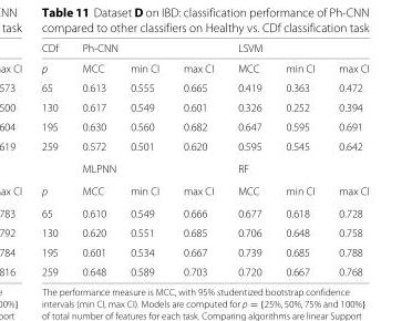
<table><thead><tr><td rowspan="2">CDf p</td><td colspan="3">Ph-CNN</td><td colspan="3">LSVM</td></tr><tr><td>MCC</td><td>min CI</td><td>max CI</td><td>MCC</td><td>min CI</td><td>max CI</td></tr></thead><tbody><tr><td>65</td><td>0.613</td><td>0.555</td><td>0.665</td><td>0.419</td><td>0.363</td><td>0.472</td></tr><tr><td>130</td><td>0.617</td><td>0.549</td><td>0.601</td><td>0.326</td><td>0.252</td><td>0.394</td></tr><tr><td>195</td><td>0.630</td><td>0.560</td><td>0.682</td><td>0.647</td><td>0.595</td><td>0.691</td></tr><tr><td rowspan="2">259</td><td>0.572</td><td>0.501</td><td>0.620</td><td>0.595</td><td>0.545</td><td>0.642</td></tr><tr><td colspan="3">MLPNN</td><td colspan="3">RF</td></tr><tr><td>p</td><td>MCC</td><td>min CI</td><td>max CI</td><td>MCC</td><td>min CI</td><td>max CI</td></tr><tr><td>65</td><td>0.610</td><td>0.549</td><td>0.666</td><td>0.677</td><td>0.618</td><td>0.728</td></tr><tr><td>130</td><td>0.620</td><td>0.551</td><td>0.685</td><td>0.706</td><td>0.648</td><td>0.758</td></tr><tr><td>195</td><td>0.601</td><td>0.534</td><td>0.667</td><td>0.739</td><td>0.685</td><td>0.788</td></tr><tr><td>259</td><td>0.648</td><td>0.589</td><td>0.703</td><td>0.720</td><td>0.667</td><td>0.768</td></tr></tbody></table>